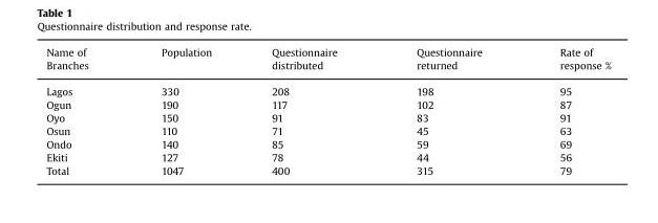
<table><thead><tr><td>Name of Branches</td><td>Population</td><td>Questionnaire distributed</td><td>Questionnaire returned</td><td>Rate of response %</td></tr></thead><tbody><tr><td>Lagos</td><td>330</td><td>208</td><td>198</td><td>95</td></tr><tr><td>Ogun</td><td>190</td><td>117</td><td>102</td><td>87</td></tr><tr><td>Oyo</td><td>150</td><td>91</td><td>83</td><td>91</td></tr><tr><td>Osun</td><td>110</td><td>71</td><td>45</td><td>63</td></tr><tr><td>Ondo</td><td>140</td><td>85</td><td>59</td><td>69</td></tr><tr><td>Ekiti</td><td>127</td><td>78</td><td>44</td><td>56</td></tr><tr><td>Total</td><td>1047</td><td>400</td><td>315</td><td>79</td></tr></tbody></table>